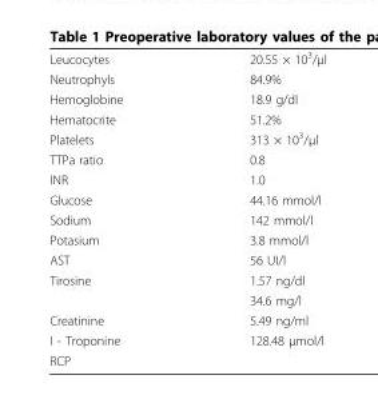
<table><tbody><tr><td>Leucocytes</td><td>20.55 × 10<sup>3</sup>/μl</td></tr><tr><td>Neutrophyls</td><td>84.9%</td></tr><tr><td>Hemoglobine</td><td>18.9 g/dl</td></tr><tr><td>Hematocrite</td><td>51.2%</td></tr><tr><td>Platelets</td><td>313 × 10<sup>3</sup>/μl</td></tr><tr><td>TTPa ratio</td><td>0.8</td></tr><tr><td>INR</td><td>1.0</td></tr><tr><td>Glucose</td><td>44.16 mmol/l</td></tr><tr><td>Sodium</td><td>142 mmol/l</td></tr><tr><td>Potasium</td><td>3.8 mmol/l</td></tr><tr><td>AST</td><td>56 UI/l</td></tr><tr><td rowspan="2">Tirosine</td><td>1.57 ng/dl</td></tr><tr><td>34.6 mg/l</td></tr><tr><td>Creatinine</td><td>5.49 ng/ml</td></tr><tr><td>I - Troponine</td><td>128.48 μmol/l</td></tr><tr><td>RCP</td><td></td></tr></tbody></table>